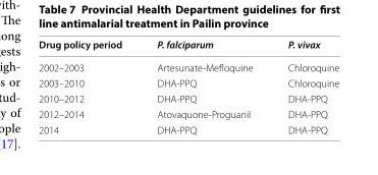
<table><thead><tr><td>Drug policy period</td><td>P. falciparum</td><td>P. vivax</td></tr></thead><tbody><tr><td>2002–2003</td><td>Artesunate-Mefloquine</td><td>Chloroquine</td></tr><tr><td>2003–2010</td><td>DHA-PPQ</td><td>Chloroquine</td></tr><tr><td>2010–2012</td><td>DHA-PPQ</td><td>DHA-PPQ</td></tr><tr><td>2012–2014</td><td>Atovaquone-Proguanil</td><td>DHA-PPQ</td></tr><tr><td>2014</td><td>DHA-PPQ</td><td>DHA-PPQ</td></tr></tbody></table>